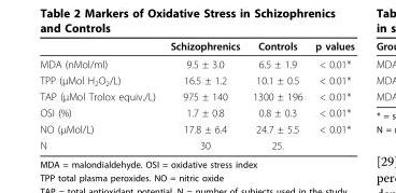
<table><thead><tr><td></td><td>Schizophrenics</td><td>Controls</td><td>p values</td></tr></thead><tbody><tr><td>MDA (nMol/ml)</td><td>9.5 ± 3.0</td><td>6.5 ± 1.9</td><td>&lt; 0.01*</td></tr><tr><td>TPP (μMol H<sub>2</sub>O<sub>2</sub>/L)</td><td>16.5 ± 1.2</td><td>10.1 ± 0.5</td><td>&lt; 0.01*</td></tr><tr><td>TAP (μMol Trolox equiv./L)</td><td>975 ± 140</td><td>1300 ± 196</td><td>&lt; 0.01*</td></tr><tr><td>OSI (%)</td><td>1.7 ± 0.8</td><td>0.8 ± 0.3</td><td>&lt; 0.01*</td></tr><tr><td>NO (μMol/L)</td><td>17.8 ± 6.4</td><td>24.7 ± 5.5</td><td>&lt; 0.01*</td></tr><tr><td>N</td><td>30</td><td>25.</td><td></td></tr></tbody></table>